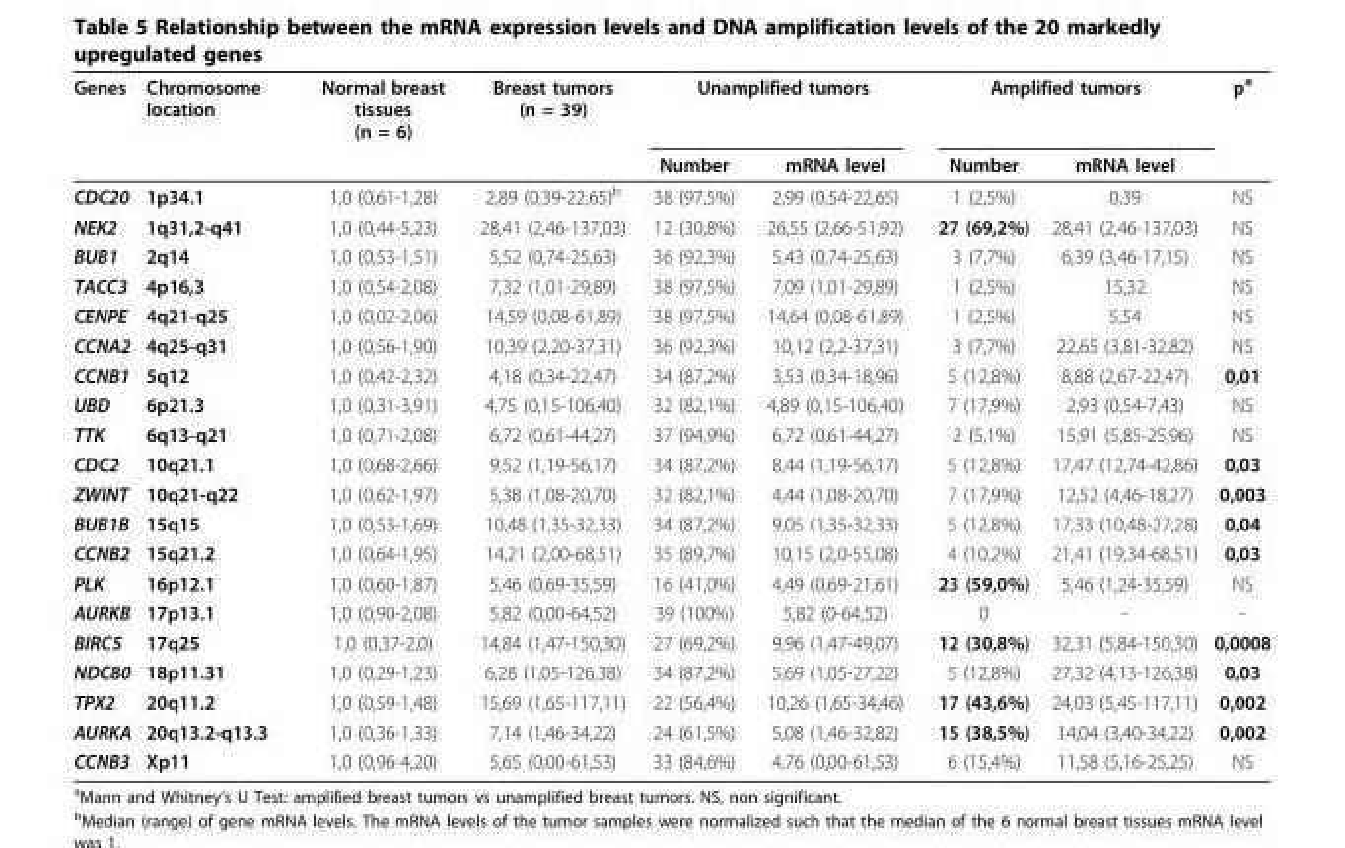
<table><thead><tr><td rowspan="2">Genes</td><td rowspan="2">Chromosome location</td><td rowspan="2">Normal breast tissues (n = 6)</td><td rowspan="2">Breast tumors (n = 39)</td><td colspan="2">Unamplified tumors</td><td colspan="2">Amplified tumors</td><td rowspan="2">p<sup>a</sup></td></tr><tr><td>Number</td><td>mRNA level</td><td>Number</td><td>mRNA level</td></tr></thead><tbody><tr><td>CDC20</td><td>1p34.1</td><td>1,0 (0,61-1,28)</td><td>2,89 (0,39-22,65)<sup>b</sup></td><td>38 (97,5%)</td><td>2,99 (0,54-22,65)</td><td>1 (2,5%)</td><td>0,39</td><td>NS</td></tr><tr><td>NEK2</td><td>1q31,2-q41</td><td>1,0 (0,44-5,23)</td><td>28,41 (2,46-137,03)</td><td>12 (30,8%)</td><td>26,55 (2,66-51,92)</td><td>27 (69,2%)</td><td>28,41 (2,46-137,03)</td><td>NS</td></tr><tr><td>BUB1</td><td>2q14</td><td>1,0 (0,53-1,51)</td><td>5,52 (0,74-25,63)</td><td>36 (92,3%)</td><td>5,43 (0,74-25,63)</td><td>3 (7,7%)</td><td>6,39 (3,46-17,15)</td><td>NS</td></tr><tr><td>TACC3</td><td>4p16,3</td><td>1,0 (0,54-2,08)</td><td>7,32 (1,01-29,89)</td><td>38 (97,5%)</td><td>7,09 (1,01-29,89)</td><td>1 (2,5%)</td><td>15,32</td><td>NS</td></tr><tr><td>CENPE</td><td>4q21-q25</td><td>1,0 (0,02-2,06)</td><td>14,59 (0,08-61,89)</td><td>38 (97,5%)</td><td>14,64 (0,08-61,89)</td><td>1 (2,5%)</td><td>5,54</td><td>NS</td></tr><tr><td>CCNA2</td><td>4q25-q31</td><td>1,0 (0,56-1,90)</td><td>10,39 (2,20-37,31)</td><td>36 (92,3%)</td><td>10,12 (2,2-37,31)</td><td>3 (7,7%)</td><td>22,65 (3,81-32,82)</td><td>NS</td></tr><tr><td>CCNB1</td><td>5q12</td><td>1,0 (0,42-2,32)</td><td>4,18 (0,34-22,47)</td><td>34 (87,2%)</td><td>3,53 (0,34-18,96)</td><td>5 (12,8%)</td><td>8,88 (2,67-22,47)</td><td>0,01</td></tr><tr><td>UBD</td><td>6p21.3</td><td>1,0 (0,31-3,91)</td><td>4,75 (0,15-106,40)</td><td>32 (82,1%)</td><td>4,89 (0,15-106,40)</td><td>7 (17,9%)</td><td>2,93 (0,54-7,43)</td><td>NS</td></tr><tr><td>TTK</td><td>6q13-q21</td><td>1,0 (0,71-2,08)</td><td>6,72 (0,61-44,27)</td><td>37 (94,9%)</td><td>6,72 (0,61-44,27)</td><td>2 (5,1%)</td><td>15,91 (5,85-25,96)</td><td>NS</td></tr><tr><td>CDC2</td><td>10q21.1</td><td>1,0 (0,68-2,66)</td><td>9,52 (1,19-56,17)</td><td>34 (87,2%)</td><td>8,44 (1,19-56,17)</td><td>5 (12,8%)</td><td>17,47 (12,74-42,86)</td><td>0,03</td></tr><tr><td>ZWINT</td><td>10q21-q22</td><td>1,0 (0,62-1,97)</td><td>5,38 (1,08-20,70)</td><td>32 (82,1%)</td><td>4,44 (1,08-20,70)</td><td>7 (17,9%)</td><td>12,52 (4,46-18,27)</td><td>0,003</td></tr><tr><td>BUB1B</td><td>15q15</td><td>1,0 (0,53-1,69)</td><td>10,48 (1,35-32,33)</td><td>34 (87,2%)</td><td>9,05 (1,35-32,33)</td><td>5 (12,8%)</td><td>17,33 (10,48-27,28)</td><td>0,04</td></tr><tr><td>CCNB2</td><td>15q21.2</td><td>1,0 (0,64-1,95)</td><td>14,21 (2,00-68,51)</td><td>35 (89,7%)</td><td>10,15 (2,0-55,08)</td><td>4 (10,2%)</td><td>21,41 (19,34-68,51)</td><td>0,03</td></tr><tr><td>PLK</td><td>16p12.1</td><td>1,0 (0,60-1,87)</td><td>5,46 (0,69-35,59)</td><td>16 (41,0%)</td><td>4,49 (0,69-21,61)</td><td>23 (59,0%)</td><td>5,46 (1,24-35,59)</td><td>NS</td></tr><tr><td>AURKB</td><td>17p13.1</td><td>1,0 (0,90-2,08)</td><td>5,82 (0,00-64,52)</td><td>39 (100%)</td><td>5,82 (0-64,52)</td><td>0</td><td>-</td><td>-</td></tr><tr><td>BIRC5</td><td>17q25</td><td>1,0 (0,37-2,0)</td><td>14,84 (1,47-150,30)</td><td>27 (69,2%)</td><td>9,96 (1,47-49,07)</td><td>12 (30,8%)</td><td>32,31 (5,84-150,30)</td><td>0,0008</td></tr><tr><td>NDC80</td><td>18p11.31</td><td>1,0 (0,29-1,23)</td><td>6,28 (1,05-126,38)</td><td>34 (87,2%)</td><td>5,69 (1,05-27,22)</td><td>5 (12,8%)</td><td>27,32 (4,13-126,38)</td><td>0,03</td></tr><tr><td>TPX2</td><td>20q11.2</td><td>1,0 (0,59-1,48)</td><td>15,69 (1,65-117,11)</td><td>22 (56,4%)</td><td>10,26 (1,65-34,46)</td><td>17 (43,6%)</td><td>24,03 (5,45-117,11)</td><td>0,002</td></tr><tr><td>AURKA</td><td>20q13.2-q13.3</td><td>1,0 (0,36-1,33)</td><td>7,14 (1,46-34,22)</td><td>24 (61,5%)</td><td>5,08 (1,46-32,82)</td><td>15 (38,5%)</td><td>14,04 (3,40-34,22)</td><td>0,002</td></tr><tr><td>CCNB3</td><td>Xp11</td><td>1,0 (0,96-4,20)</td><td>5,65 (0,00-61,53)</td><td>33 (84,6%)</td><td>4,76 (0,00-61,53)</td><td>6 (15,4%)</td><td>11,58 (5,16-25,25)</td><td>NS</td></tr></tbody></table>